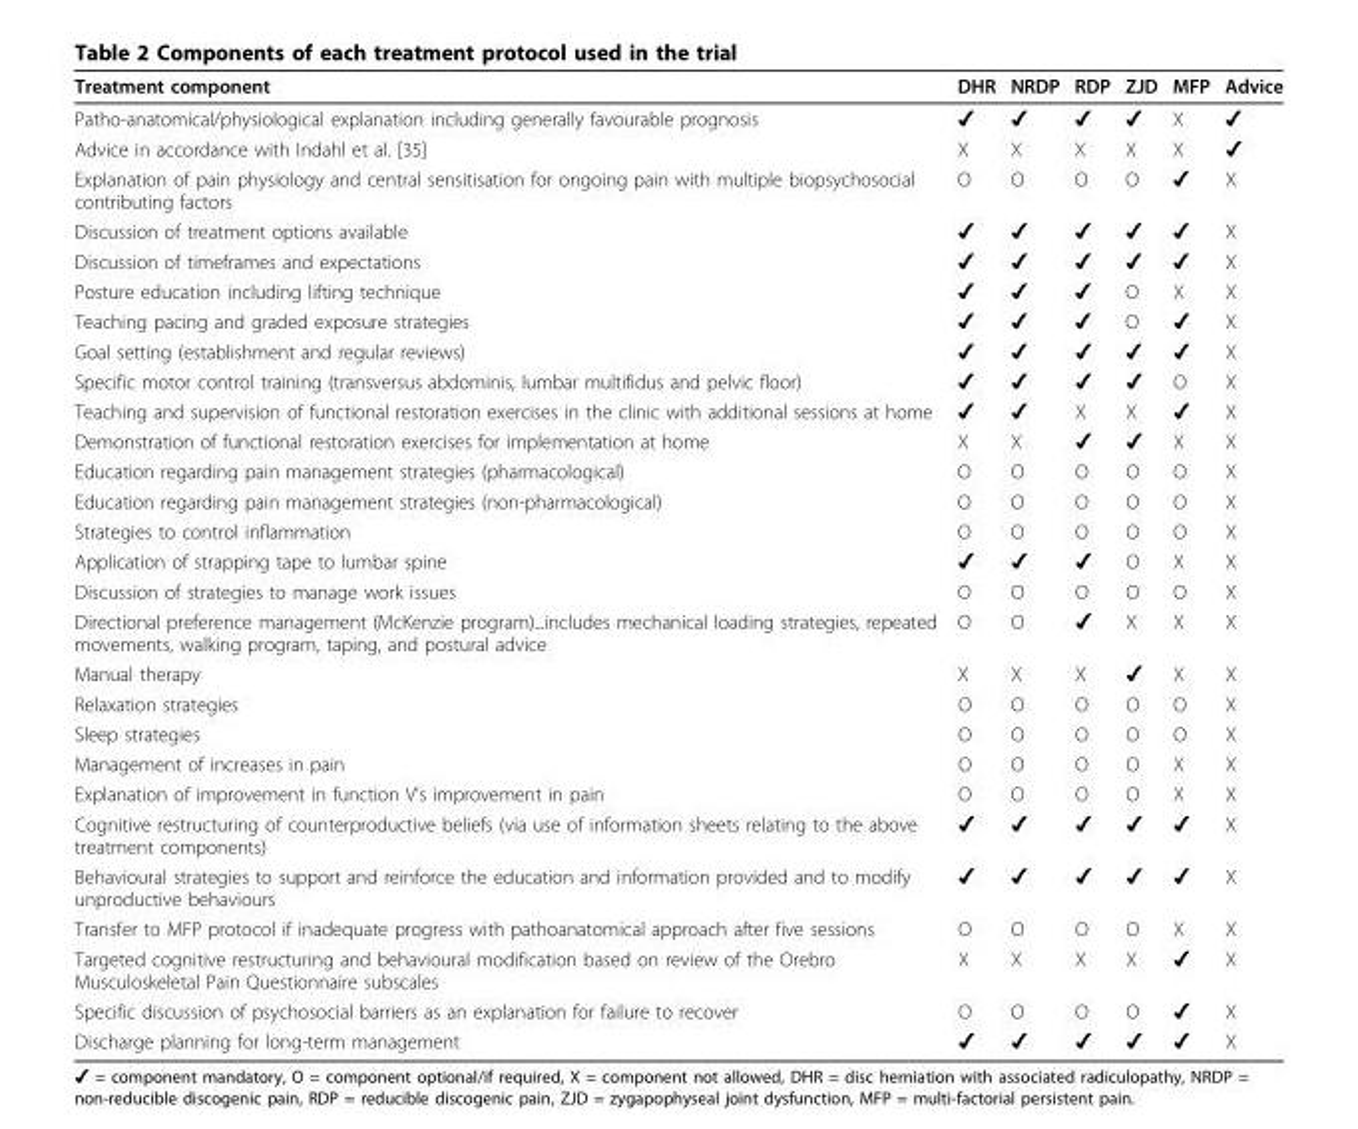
<table><thead><tr><td>Treatment component</td><td>DHR</td><td>NRDP</td><td>RDP</td><td>ZJD</td><td>MFP</td><td>Advice</td></tr></thead><tbody><tr><td>Patho-anatomical/physiological explanation including generally favourable prognosis</td><td>✔</td><td>✔</td><td>✔</td><td>✔</td><td>X</td><td>✔</td></tr><tr><td>Advice in accordance with Indahl et al. [35]</td><td>X</td><td>X</td><td>X</td><td>X</td><td>X</td><td>✔</td></tr><tr><td>Explanation of pain physiology and central sensitisation for ongoing pain with multiple biopsychosocial contributing factors</td><td>O</td><td>O</td><td>O</td><td>O</td><td>✔</td><td>X</td></tr><tr><td>Discussion of treatment options available</td><td>✔</td><td>✔</td><td>✔</td><td>✔</td><td>✔</td><td>X</td></tr><tr><td>Discussion of timeframes and expectations</td><td>✔</td><td>✔</td><td>✔</td><td>✔</td><td>✔</td><td>X</td></tr><tr><td>Posture education including lifting technique</td><td>✔</td><td>✔</td><td>✔</td><td>O</td><td>X</td><td>X</td></tr><tr><td>Teaching pacing and graded exposure strategies</td><td>✔</td><td>✔</td><td>✔</td><td>O</td><td>✔</td><td>X</td></tr><tr><td>Goal setting (establishment and regular reviews)</td><td>✔</td><td>✔</td><td>✔</td><td>✔</td><td>✔</td><td>X</td></tr><tr><td>Specific motor control training (transversus abdominis, lumbar multifidus and pelvic floor)</td><td>✔</td><td>✔</td><td>✔</td><td>✔</td><td>O</td><td>X</td></tr><tr><td>Teaching and supervision of functional restoration exercises in the clinic with additional sessions at home</td><td>✔</td><td>✔</td><td>X</td><td>X</td><td>✔</td><td>X</td></tr><tr><td>Demonstration of functional restoration exercises for implementation at home</td><td>X</td><td>X</td><td>✔</td><td>✔</td><td>X</td><td>X</td></tr><tr><td>Education regarding pain management strategies (pharmacological)</td><td>O</td><td>O</td><td>O</td><td>O</td><td>O</td><td>X</td></tr><tr><td>Education regarding pain management strategies (non-pharmacological)</td><td>O</td><td>O</td><td>O</td><td>O</td><td>O</td><td>X</td></tr><tr><td>Strategies to control inflammation</td><td>O</td><td>O</td><td>O</td><td>O</td><td>O</td><td>X</td></tr><tr><td>Application of strapping tape to lumbar spine</td><td>✔</td><td>✔</td><td>✔</td><td>O</td><td>X</td><td>X</td></tr><tr><td>Discussion of strategies to manage work issues</td><td>O</td><td>O</td><td>O</td><td>O</td><td>O</td><td>X</td></tr><tr><td>Directional preference management (McKenzie program)...includes mechanical loading strategies, repeated movements, walking program, taping, and postural advice</td><td>O</td><td>O</td><td>✔</td><td>X</td><td>X</td><td>X</td></tr><tr><td>Manual therapy</td><td>X</td><td>X</td><td>X</td><td>✔</td><td>X</td><td>X</td></tr><tr><td>Relaxation strategies</td><td>O</td><td>O</td><td>O</td><td>O</td><td>O</td><td>X</td></tr><tr><td>Sleep strategies</td><td>O</td><td>O</td><td>O</td><td>O</td><td>O</td><td>X</td></tr><tr><td>Management of increases in pain</td><td>O</td><td>O</td><td>O</td><td>O</td><td>X</td><td>X</td></tr><tr><td>Explanation of improvement in function V’s improvement in pain</td><td>O</td><td>O</td><td>O</td><td>O</td><td>X</td><td>X</td></tr><tr><td>Cognitive restructuring of counterproductive beliefs (via use of information sheets relating to the above treatment components)</td><td>✔</td><td>✔</td><td>✔</td><td>✔</td><td>✔</td><td>X</td></tr><tr><td>Behavioural strategies to support and reinforce the education and information provided and to modify unproductive behaviours</td><td>✔</td><td>✔</td><td>✔</td><td>✔</td><td>✔</td><td>X</td></tr><tr><td>Transfer to MFP protocol if inadequate progress with pathoanatomical approach after five sessions</td><td>O</td><td>O</td><td>O</td><td>O</td><td>X</td><td>X</td></tr><tr><td>Targeted cognitive restructuring and behavioural modification based on review of the Orebro Musculoskeletal Pain Questionnaire subscales</td><td>X</td><td>X</td><td>X</td><td>X</td><td>✔</td><td>X</td></tr><tr><td>Specific discussion of psychosocial barriers as an explanation for failure to recover</td><td>O</td><td>O</td><td>O</td><td>O</td><td>✔</td><td>X</td></tr><tr><td>Discharge planning for long-term management</td><td>✔</td><td>✔</td><td>✔</td><td>✔</td><td>✔</td><td>X</td></tr></tbody></table>